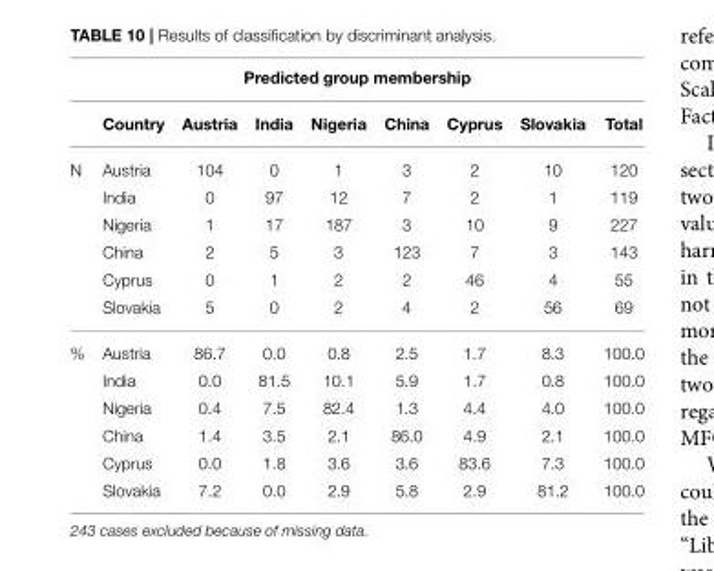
<table><thead><tr><td colspan="9">Predicted group membership</td></tr><tr><td></td><td>Country</td><td>Austria</td><td>India</td><td>Nigeria</td><td>China</td><td>Cyprus</td><td>Slovakia</td><td>Total</td></tr></thead><tbody><tr><td rowspan="6">N</td><td>Austria</td><td>104</td><td>0</td><td>1</td><td>3</td><td>2</td><td>10</td><td>120</td></tr><tr><td>India</td><td>0</td><td>97</td><td>12</td><td>7</td><td>2</td><td>1</td><td>119</td></tr><tr><td>Nigeria</td><td>1</td><td>17</td><td>187</td><td>3</td><td>10</td><td>9</td><td>227</td></tr><tr><td>China</td><td>2</td><td>5</td><td>3</td><td>123</td><td>7</td><td>3</td><td>143</td></tr><tr><td>Cyprus</td><td>0</td><td>1</td><td>2</td><td>2</td><td>46</td><td>4</td><td>55</td></tr><tr><td>Slovakia</td><td>5</td><td>0</td><td>2</td><td>4</td><td>2</td><td>56</td><td>69</td></tr><tr><td rowspan="6">%</td><td>Austria</td><td>86.7</td><td>0.0</td><td>0.8</td><td>2.5</td><td>1.7</td><td>8.3</td><td>100.0</td></tr><tr><td>India</td><td>0.0</td><td>81.5</td><td>10.1</td><td>5.9</td><td>1.7</td><td>0.8</td><td>100.0</td></tr><tr><td>Nigeria</td><td>0.4</td><td>7.5</td><td>82.4</td><td>1.3</td><td>4.4</td><td>4.0</td><td>100.0</td></tr><tr><td>China</td><td>1.4</td><td>3.5</td><td>2.1</td><td>86.0</td><td>4.9</td><td>2.1</td><td>100.0</td></tr><tr><td>Cyprus</td><td>0.0</td><td>1.8</td><td>3.6</td><td>3.6</td><td>83.6</td><td>7.3</td><td>100.0</td></tr><tr><td>Slovakia</td><td>7.2</td><td>0.0</td><td>2.9</td><td>5.8</td><td>2.9</td><td>81.2</td><td>100.0</td></tr></tbody></table>